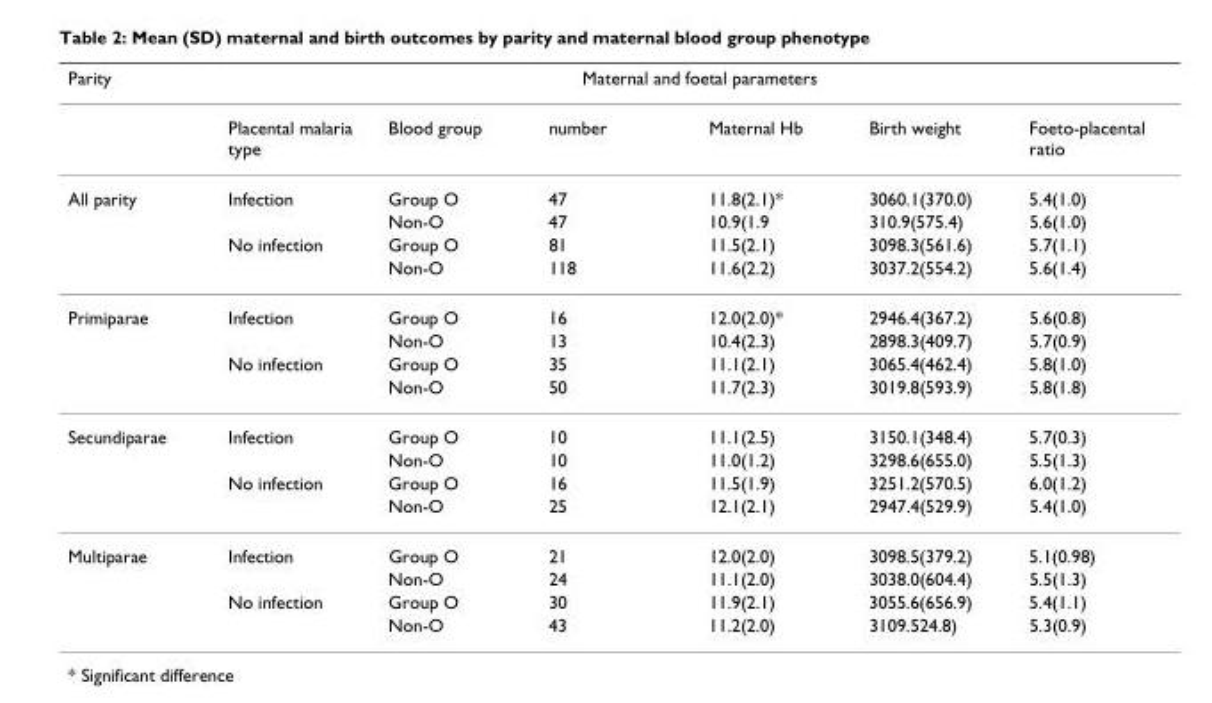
<table><thead><tr><td rowspan="2">Parity</td><td colspan="6">Maternal and foetal parameters</td></tr><tr><td>Placental malaria type</td><td>Blood group</td><td>number</td><td>Maternal Hb</td><td>Birth weight</td><td>Foeto-placental ratio</td></tr></thead><tbody><tr><td rowspan="4">All parity</td><td>Infection</td><td>Group O</td><td>47</td><td>11.8(2.1)*</td><td>3060.1(370.0)</td><td>5.4(1.0)</td></tr><tr><td></td><td>Non-O</td><td>47</td><td>10.9(1.9</td><td>310.9(575.4)</td><td>5.6(1.0)</td></tr><tr><td>No infection</td><td>Group O</td><td>81</td><td>11.5(2.1)</td><td>3098.3(561.6)</td><td>5.7(1.1)</td></tr><tr><td></td><td>Non-O</td><td>118</td><td>11.6(2.2)</td><td>3037.2(554.2)</td><td>5.6(1.4)</td></tr><tr><td rowspan="4">Primiparae</td><td>Infection</td><td>Group O</td><td>16</td><td>12.0(2.0)*</td><td>2946.4(367.2)</td><td>5.6(0.8)</td></tr><tr><td></td><td>Non-O</td><td>13</td><td>10.4(2.3)</td><td>2898.3(409.7)</td><td>5.7(0.9)</td></tr><tr><td>No infection</td><td>Group O</td><td>35</td><td>11.1(2.1)</td><td>3065.4(462.4)</td><td>5.8(1.0)</td></tr><tr><td></td><td>Non-O</td><td>50</td><td>11.7(2.3)</td><td>3019.8(593.9)</td><td>5.8(1.8)</td></tr><tr><td rowspan="4">Secundiparae</td><td>Infection</td><td>Group O</td><td>10</td><td>11.1(2.5)</td><td>3150.1(348.4)</td><td>5.7(0.3)</td></tr><tr><td></td><td>Non-O</td><td>10</td><td>11.0(1.2)</td><td>3298.6(655.0)</td><td>5.5(1.3)</td></tr><tr><td>No infection</td><td>Group O</td><td>16</td><td>11.5(1.9)</td><td>3251.2(570.5)</td><td>6.0(1.2)</td></tr><tr><td></td><td>Non-O</td><td>25</td><td>12.1(2.1)</td><td>2947.4(529.9)</td><td>5.4(1.0)</td></tr><tr><td rowspan="4">Multiparae</td><td>Infection</td><td>Group O</td><td>21</td><td>12.0(2.0)</td><td>3098.5(379.2)</td><td>5.1(0.98)</td></tr><tr><td></td><td>Non-O</td><td>24</td><td>11.1(2.0)</td><td>3038.0(604.4)</td><td>5.5(1.3)</td></tr><tr><td>No infection</td><td>Group O</td><td>30</td><td>11.9(2.1)</td><td>3055.6(656.9)</td><td>5.4(1.1)</td></tr><tr><td></td><td>Non-O</td><td>43</td><td>11.2(2.0)</td><td>3109.524.8)</td><td>5.3(0.9)</td></tr></tbody></table>